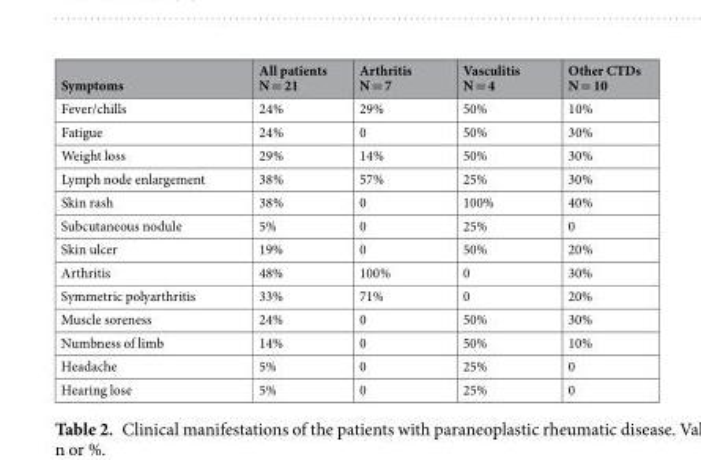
<table><thead><tr><td>Symptoms</td><td>All patients N = 21</td><td>Arthritis N = 7</td><td>Vasculitis N = 4</td><td>Other CTDs N = 10</td></tr></thead><tbody><tr><td>Fever/chills</td><td>24%</td><td>29%</td><td>50%</td><td>10%</td></tr><tr><td>Fatigue</td><td>24%</td><td>0</td><td>50%</td><td>30%</td></tr><tr><td>Weight loss</td><td>29%</td><td>14%</td><td>50%</td><td>30%</td></tr><tr><td>Lymph node enlargement</td><td>38%</td><td>57%</td><td>25%</td><td>30%</td></tr><tr><td>Skin rash</td><td>38%</td><td>0</td><td>100%</td><td>40%</td></tr><tr><td>Subcutaneous nodule</td><td>5%</td><td>0</td><td>25%</td><td>0</td></tr><tr><td>Skin ulcer</td><td>19%</td><td>0</td><td>50%</td><td>20%</td></tr><tr><td>Arthritis</td><td>48%</td><td>100%</td><td>0</td><td>30%</td></tr><tr><td>Symmetric polyarthritis</td><td>33%</td><td>71%</td><td>0</td><td>20%</td></tr><tr><td>Muscle soreness</td><td>24%</td><td>0</td><td>50%</td><td>30%</td></tr><tr><td>Numbness of limb</td><td>14%</td><td>0</td><td>50%</td><td>10%</td></tr><tr><td>Headache</td><td>5%</td><td>0</td><td>25%</td><td>0</td></tr><tr><td>Hearing lose</td><td>5%</td><td>0</td><td>25%</td><td>0</td></tr></tbody></table>